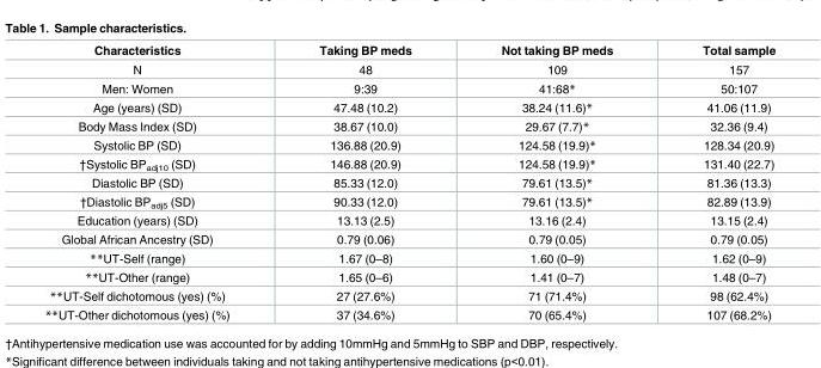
<table><thead><tr><td>Characteristics</td><td>Taking BP meds</td><td>Not taking BP meds</td><td>Total sample</td></tr></thead><tbody><tr><td>N</td><td>48</td><td>109</td><td>157</td></tr><tr><td>Men: Women</td><td>9:39</td><td>41:68*</td><td>50:107</td></tr><tr><td>Age (years) (SD)</td><td>47.48 (10.2)</td><td>38.24 (11.6)*</td><td>41.06 (11.9)</td></tr><tr><td>Body Mass Index (SD)</td><td>38.67 (10.0)</td><td>29.67 (7.7)*</td><td>32.36 (9.4)</td></tr><tr><td>Systolic BP (SD)</td><td>136.88 (20.9)</td><td>124.58 (19.9)*</td><td>128.34 (20.9)</td></tr><tr><td>†Systolic BP<sub>adj10</sub> (SD)</td><td>146.88 (20.9)</td><td>124.58 (19.9)*</td><td>131.40 (22.7)</td></tr><tr><td>Diastolic BP (SD)</td><td>85.33 (12.0)</td><td>79.61 (13.5)*</td><td>81.36 (13.3)</td></tr><tr><td>†Diastolic BP<sub>adj5</sub> (SD)</td><td>90.33 (12.0)</td><td>79.61 (13.5)*</td><td>82.89 (13.9)</td></tr><tr><td>Education (years) (SD)</td><td>13.13 (2.5)</td><td>13.16 (2.4)</td><td>13.15 (2.4)</td></tr><tr><td>Global African Ancestry (SD)</td><td>0.79 (0.06)</td><td>0.79 (0.05)</td><td>0.79 (0.05)</td></tr><tr><td>**UT-Self (range)</td><td>1.67 (0–8)</td><td>1.60 (0–9)</td><td>1.62 (0–9)</td></tr><tr><td>**UT-Other (range)</td><td>1.65 (0–6)</td><td>1.41 (0–7)</td><td>1.48 (0–7)</td></tr><tr><td>**UT-Self dichotomous (yes) (%)</td><td>27 (27.6%)</td><td>71 (71.4%)</td><td>98 (62.4%)</td></tr><tr><td>**UT-Other dichotomous (yes) (%)</td><td>37 (34.6%)</td><td>70 (65.4%)</td><td>107 (68.2%)</td></tr></tbody></table>